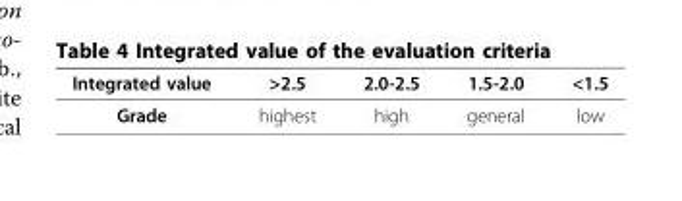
<table><thead><tr><td>Integrated value</td><td>&gt;2.5</td><td>2.0-2.5</td><td>1.5-2.0</td><td>&lt;1.5</td></tr></thead><tbody><tr><td>Grade</td><td>highest</td><td>high</td><td>general</td><td>low</td></tr></tbody></table>